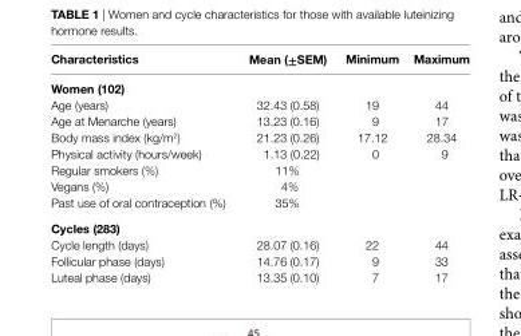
<table><thead><tr><td>characteristics</td><td>Mean (±seM)</td><td>Minimum</td><td>Maximum</td></tr></thead><tbody><tr><td colspan="4">Women (102)</td></tr><tr><td>Age (years)</td><td>32.43 (0.58)</td><td>19</td><td>44</td></tr><tr><td>Age at Menarche (years)</td><td>13.23 (0.16)</td><td>9</td><td>17</td></tr><tr><td>Body mass index (kg/m<sup>2</sup>)</td><td>21.23 (0.26)</td><td>17.12</td><td>28.34</td></tr><tr><td>Physical activity (hours/week)</td><td>1.13 (0.22)</td><td>0</td><td>9</td></tr><tr><td>Regular smokers (%)</td><td>11%</td><td></td><td></td></tr><tr><td>Vegans (%)</td><td>4%</td><td></td><td></td></tr><tr><td>Past use of oral contraception (%)</td><td>35%</td><td></td><td></td></tr><tr><td colspan="4">cycles (283)</td></tr><tr><td>Cycle length (days)</td><td>28.07 (0.16)</td><td>22</td><td>44</td></tr><tr><td>Follicular phase (days)</td><td>14.76 (0.17)</td><td>9</td><td>33</td></tr><tr><td>Luteal phase (days)</td><td>13.35 (0.10)</td><td>7</td><td>17</td></tr></tbody></table>